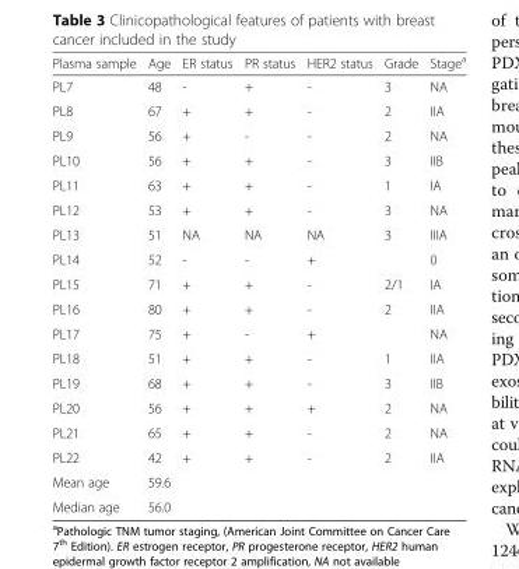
<table><thead><tr><td>Plasma sample</td><td>Age</td><td>ER status</td><td>PR status</td><td>HER2 status</td><td>Grade</td><td>Stage<sup>a</sup></td></tr></thead><tbody><tr><td>PL7</td><td>48</td><td>-</td><td>+</td><td>-</td><td>3</td><td>NA</td></tr><tr><td>PL8</td><td>67</td><td>+</td><td>+</td><td>-</td><td>2</td><td>IIA</td></tr><tr><td>PL9</td><td>56</td><td>+</td><td>-</td><td>-</td><td>2</td><td>NA</td></tr><tr><td>PL10</td><td>56</td><td>+</td><td>+</td><td>-</td><td>3</td><td>IIB</td></tr><tr><td>PL11</td><td>63</td><td>+</td><td>+</td><td>-</td><td>1</td><td>IA</td></tr><tr><td>PL12</td><td>53</td><td>+</td><td>+</td><td>-</td><td>3</td><td>NA</td></tr><tr><td>PL13</td><td>51</td><td>NA</td><td>NA</td><td>NA</td><td>3</td><td>IIIA</td></tr><tr><td>PL14</td><td>52</td><td>-</td><td>-</td><td>+</td><td></td><td>0</td></tr><tr><td>PL15</td><td>71</td><td>+</td><td>+</td><td>-</td><td>2/1</td><td>IA</td></tr><tr><td>PL16</td><td>80</td><td>+</td><td>+</td><td>-</td><td>2</td><td>IIA</td></tr><tr><td>PL17</td><td>75</td><td>+</td><td>-</td><td>+</td><td></td><td>NA</td></tr><tr><td>PL18</td><td>51</td><td>+</td><td>+</td><td>-</td><td>1</td><td>IIA</td></tr><tr><td>PL19</td><td>68</td><td>+</td><td>+</td><td>-</td><td>3</td><td>IIB</td></tr><tr><td>PL20</td><td>56</td><td>+</td><td>+</td><td>+</td><td>2</td><td>NA</td></tr><tr><td>PL21</td><td>65</td><td>+</td><td>+</td><td>-</td><td>2</td><td>NA</td></tr><tr><td>PL22</td><td>42</td><td>+</td><td>+</td><td>-</td><td>2</td><td>IIA</td></tr><tr><td>Mean age</td><td>59.6</td><td></td><td></td><td></td><td></td><td></td></tr><tr><td>Median age</td><td>56.0</td><td></td><td></td><td></td><td></td><td></td></tr></tbody></table>